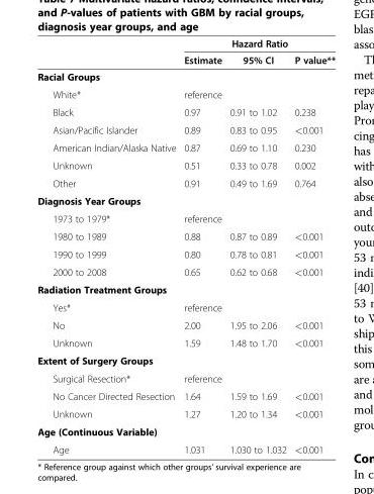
<table><thead><tr><td rowspan="2"></td><td colspan="3">Hazard Ratio</td></tr><tr><td>Estimate</td><td>95% CI</td><td>P value**</td></tr></thead><tbody><tr><td colspan="4">Racial Groups</td></tr><tr><td>White*</td><td colspan="3">reference</td></tr><tr><td>Black</td><td>0.97</td><td>0.91 to 1.02</td><td>0.238</td></tr><tr><td>Asian/Pacific Islander</td><td>0.89</td><td>0.83 to 0.95</td><td>&lt;0.001</td></tr><tr><td>American Indian/Alaska Native</td><td>0.87</td><td>0.69 to 1.10</td><td>0.230</td></tr><tr><td>Unknown</td><td>0.51</td><td>0.33 to 0.78</td><td>0.002</td></tr><tr><td>Other</td><td>0.91</td><td>0.49 to 1.69</td><td>0.764</td></tr><tr><td colspan="4">Diagnosis Year Groups</td></tr><tr><td>1973 to 1979*</td><td colspan="3">reference</td></tr><tr><td>1980 to 1989</td><td>0.88</td><td>0.87 to 0.89</td><td>&lt;0.001</td></tr><tr><td>1990 to 1999</td><td>0.80</td><td>0.78 to 0.81</td><td>&lt;0.001</td></tr><tr><td>2000 to 2008</td><td>0.65</td><td>0.62 to 0.68</td><td>&lt;0.001</td></tr><tr><td colspan="4">Radiation Treatment Groups</td></tr><tr><td>Yes*</td><td>reference</td><td></td><td></td></tr><tr><td>No</td><td>2.00</td><td>1.95 to 2.06</td><td>&lt;0.001</td></tr><tr><td>Unknown</td><td>1.59</td><td>1.48 to 1.70</td><td>&lt;0.001</td></tr><tr><td colspan="4">Extent of Surgery Groups</td></tr><tr><td>Surgical Resection*</td><td>reference</td><td></td><td></td></tr><tr><td>No Cancer Directed Resection</td><td>1.64</td><td>1.59 to 1.69</td><td>&lt;0.001</td></tr><tr><td>Unknown</td><td>1.27</td><td>1.20 to 1.34</td><td>&lt;0.001</td></tr><tr><td colspan="4">Age (Continuous Variable)</td></tr><tr><td>Age</td><td>1.031</td><td>1.030 to 1.032</td><td>&lt;0.001</td></tr></tbody></table>